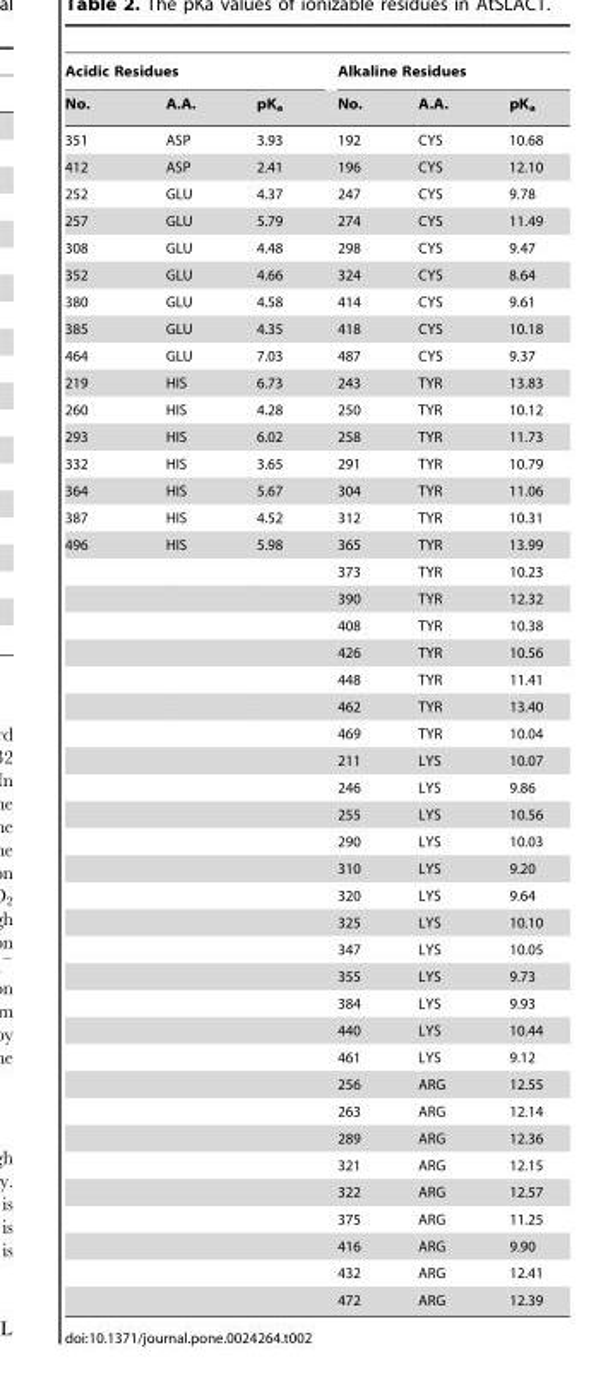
<table><thead><tr><td colspan="3">Acidic Residues</td><td colspan="3">Alkaline Residues</td></tr><tr><td>No.</td><td>A.A.</td><td>pK<sub>a</sub></td><td>No.</td><td>A.A.</td><td>pK<sub>a</sub></td></tr></thead><tbody><tr><td>351</td><td>ASP</td><td>3.93</td><td>192</td><td>CYS</td><td>10.68</td></tr><tr><td>412</td><td>ASP</td><td>2.41</td><td>196</td><td>CYS</td><td>12.10</td></tr><tr><td>252</td><td>GLU</td><td>4.37</td><td>247</td><td>CYS</td><td>9.78</td></tr><tr><td>257</td><td>GLU</td><td>5.79</td><td>274</td><td>CYS</td><td>11.49</td></tr><tr><td>308</td><td>GLU</td><td>4.48</td><td>298</td><td>CYS</td><td>9.47</td></tr><tr><td>352</td><td>GLU</td><td>4.66</td><td>324</td><td>CYS</td><td>8.64</td></tr><tr><td>380</td><td>GLU</td><td>4.58</td><td>414</td><td>CYS</td><td>9.61</td></tr><tr><td>385</td><td>GLU</td><td>4.35</td><td>418</td><td>CYS</td><td>10.18</td></tr><tr><td>464</td><td>GLU</td><td>7.03</td><td>487</td><td>CYS</td><td>9.37</td></tr><tr><td>219</td><td>HIS</td><td>6.73</td><td>243</td><td>TYR</td><td>13.83</td></tr><tr><td>260</td><td>HIS</td><td>4.28</td><td>250</td><td>TYR</td><td>10.12</td></tr><tr><td>293</td><td>HIS</td><td>6.02</td><td>258</td><td>TYR</td><td>11.73</td></tr><tr><td>332</td><td>HIS</td><td>3.65</td><td>291</td><td>TYR</td><td>10.79</td></tr><tr><td>364</td><td>HIS</td><td>5.67</td><td>304</td><td>TYR</td><td>11.06</td></tr><tr><td>387</td><td>HIS</td><td>4.52</td><td>312</td><td>TYR</td><td>10.31</td></tr><tr><td rowspan="29">496</td><td>HIS</td><td>5.98</td><td>365</td><td>TYR</td><td>13.99</td></tr><tr><td></td><td></td><td>373</td><td>TYR</td><td>10.23</td></tr><tr><td></td><td></td><td>390</td><td>TYR</td><td>12.32</td></tr><tr><td></td><td></td><td>408</td><td>TYR</td><td>10.38</td></tr><tr><td></td><td></td><td>426</td><td>TYR</td><td>10.56</td></tr><tr><td></td><td></td><td>448</td><td>TYR</td><td>11.41</td></tr><tr><td></td><td></td><td>462</td><td>TYR</td><td>13.40</td></tr><tr><td></td><td></td><td>469</td><td>TYR</td><td>10.04</td></tr><tr><td></td><td></td><td>211</td><td>LYS</td><td>10.07</td></tr><tr><td></td><td></td><td>246</td><td>LYS</td><td>9.86</td></tr><tr><td></td><td></td><td>255</td><td>LYS</td><td>10.56</td></tr><tr><td></td><td></td><td>290</td><td>LYS</td><td>10.03</td></tr><tr><td></td><td></td><td>310</td><td>LYS</td><td>9.20</td></tr><tr><td></td><td></td><td>320</td><td>LYS</td><td>9.64</td></tr><tr><td></td><td></td><td>325</td><td>LYS</td><td>10.10</td></tr><tr><td></td><td></td><td>347</td><td>LYS</td><td>10.05</td></tr><tr><td></td><td></td><td>355</td><td>LYS</td><td>9.73</td></tr><tr><td></td><td></td><td>384</td><td>LYS</td><td>9.93</td></tr><tr><td></td><td></td><td>440</td><td>LYS</td><td>10.44</td></tr><tr><td></td><td></td><td>461</td><td>LYS</td><td>9.12</td></tr><tr><td></td><td></td><td>256</td><td>ARG</td><td>12.55</td></tr><tr><td></td><td></td><td>263</td><td>ARG</td><td>12.14</td></tr><tr><td></td><td></td><td>289</td><td>ARG</td><td>12.36</td></tr><tr><td></td><td></td><td>321</td><td>ARG</td><td>12.15</td></tr><tr><td></td><td></td><td>322</td><td>ARG</td><td>12.57</td></tr><tr><td></td><td></td><td>375</td><td>ARG</td><td>11.25</td></tr><tr><td></td><td></td><td>416</td><td>ARG</td><td>9.90</td></tr><tr><td></td><td></td><td>432</td><td>ARG</td><td>12.41</td></tr><tr><td></td><td></td><td>472</td><td>ARG</td><td>12.39</td></tr></tbody></table>